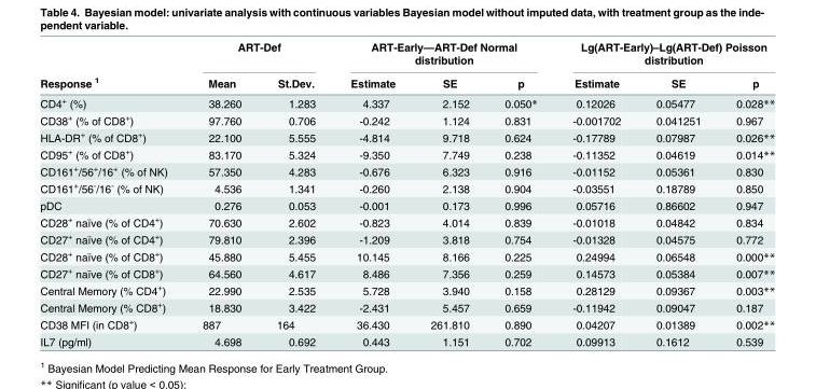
<table><thead><tr><td rowspan="2">Response <sup>1</sup></td><td colspan="2">ART-Def</td><td colspan="3">ART-Early—ART-Def Normal distribution</td><td colspan="3">Lg(ART-Early)–Lg(ART-Def) Poisson distribution</td></tr><tr><td>Mean</td><td>St.Dev.</td><td>Estimate</td><td>SE</td><td>p</td><td>Estimate</td><td>SE</td><td>p</td></tr></thead><tbody><tr><td>CD4<sup>+</sup> (%)</td><td>38.260</td><td>1.283</td><td>4.337</td><td>2.152</td><td>0.050*</td><td>0.12026</td><td>0.05477</td><td>0.028**</td></tr><tr><td>CD38<sup>+</sup> (% of CD8<sup>+</sup>)</td><td>97.760</td><td>0.706</td><td>-0.242</td><td>1.124</td><td>0.831</td><td>-0.001702</td><td>0.041251</td><td>0.967</td></tr><tr><td>HLA-DR<sup>+</sup> (% of CD8<sup>+</sup>)</td><td>22.100</td><td>5.555</td><td>-4.814</td><td>9.718</td><td>0.624</td><td>-0.17789</td><td>0.07987</td><td>0.026**</td></tr><tr><td>CD95<sup>+</sup> (% of CD8<sup>+</sup>)</td><td>83.170</td><td>5.324</td><td>-9.350</td><td>7.749</td><td>0.238</td><td>-0.11352</td><td>0.04619</td><td>0.014**</td></tr><tr><td>CD161<sup>+</sup>/56<sup>+</sup>/16<sup>+</sup> (% of NK)</td><td>57.350</td><td>4.283</td><td>-0.676</td><td>6.323</td><td>0.916</td><td>-0.01152</td><td>0.05361</td><td>0.830</td></tr><tr><td>CD161<sup>+</sup>/56<sup>-</sup>/16<sup>-</sup> (% of NK)</td><td>4.536</td><td>1.341</td><td>-0.260</td><td>2.138</td><td>0.904</td><td>-0.03551</td><td>0.18789</td><td>0.850</td></tr><tr><td>pDC</td><td>0.276</td><td>0.053</td><td>-0.001</td><td>0.173</td><td>0.996</td><td>0.05716</td><td>0.86602</td><td>0.947</td></tr><tr><td>CD28<sup>+</sup> naïve (% of CD4<sup>+</sup>)</td><td>70.630</td><td>2.602</td><td>-0.823</td><td>4.014</td><td>0.839</td><td>-0.01018</td><td>0.04842</td><td>0.834</td></tr><tr><td>CD27<sup>+</sup> naïve (% of CD4<sup>+</sup>)</td><td>79.810</td><td>2.396</td><td>-1.209</td><td>3.818</td><td>0.754</td><td>-0.01328</td><td>0.04575</td><td>0.772</td></tr><tr><td>CD28<sup>+</sup> naïve (% of CD8<sup>+</sup>)</td><td>45.880</td><td>5.455</td><td>10.145</td><td>8.166</td><td>0.225</td><td>0.24994</td><td>0.06548</td><td>0.000**</td></tr><tr><td>CD27<sup>+</sup> naïve (% of CD8<sup>+</sup>)</td><td>64.560</td><td>4.617</td><td>8.486</td><td>7.356</td><td>0.259</td><td>0.14573</td><td>0.05384</td><td>0.007**</td></tr><tr><td>Central Memory (% CD4<sup>+</sup>)</td><td>22.990</td><td>2.535</td><td>5.728</td><td>3.940</td><td>0.158</td><td>0.28129</td><td>0.09367</td><td>0.003**</td></tr><tr><td>Central Memory (% CD8<sup>+</sup>)</td><td>18.830</td><td>3.422</td><td>-2.431</td><td>5.457</td><td>0.659</td><td>-0.11942</td><td>0.09047</td><td>0.187</td></tr><tr><td>CD38 MFI (in CD8<sup>+</sup>)</td><td>887</td><td>164</td><td>36.430</td><td>261.810</td><td>0.890</td><td>0.04207</td><td>0.01389</td><td>0.002**</td></tr><tr><td>IL7 (pg/ml)</td><td>4.698</td><td>0.692</td><td>0.443</td><td>1.151</td><td>0.702</td><td>0.09913</td><td>0.1612</td><td>0.539</td></tr></tbody></table>